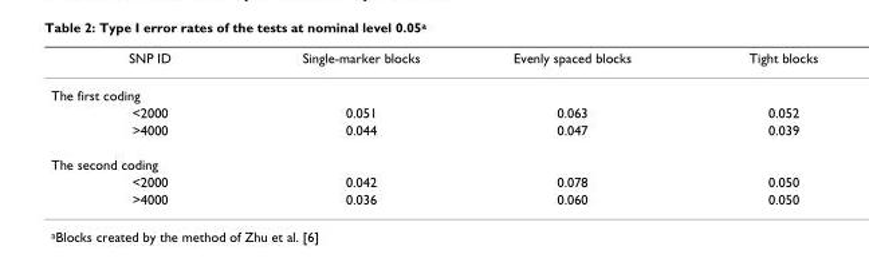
<table><thead><tr><td>SNP ID</td><td>Single-marker blocks</td><td>Evenly spaced blocks</td><td>Tight blocks</td></tr></thead><tbody><tr><td colspan="4">The first coding</td></tr><tr><td>&lt;2000</td><td>0.051</td><td>0.063</td><td>0.052</td></tr><tr><td>&gt;4000</td><td>0.044</td><td>0.047</td><td>0.039</td></tr><tr><td colspan="4">The second coding</td></tr><tr><td>&lt;2000</td><td>0.042</td><td>0.078</td><td>0.050</td></tr><tr><td>&gt;4000</td><td>0.036</td><td>0.060</td><td>0.050</td></tr></tbody></table>